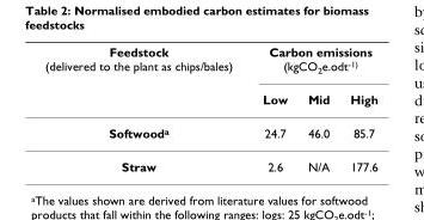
<table><thead><tr><td rowspan="2">Feedstock (delivered to the plant as chips/bales)</td><td colspan="3">Carbon emissions (kgCO<sub>2</sub>e.odt<sup>-1)</sup></td></tr><tr><td>Low</td><td>Mid</td><td>High</td></tr></thead><tbody><tr><td>Softwood<sup>a</sup></td><td>24.7</td><td>46.0</td><td>85.7</td></tr><tr><td>Straw</td><td>2.6</td><td>N/A</td><td>177.6</td></tr></tbody></table>